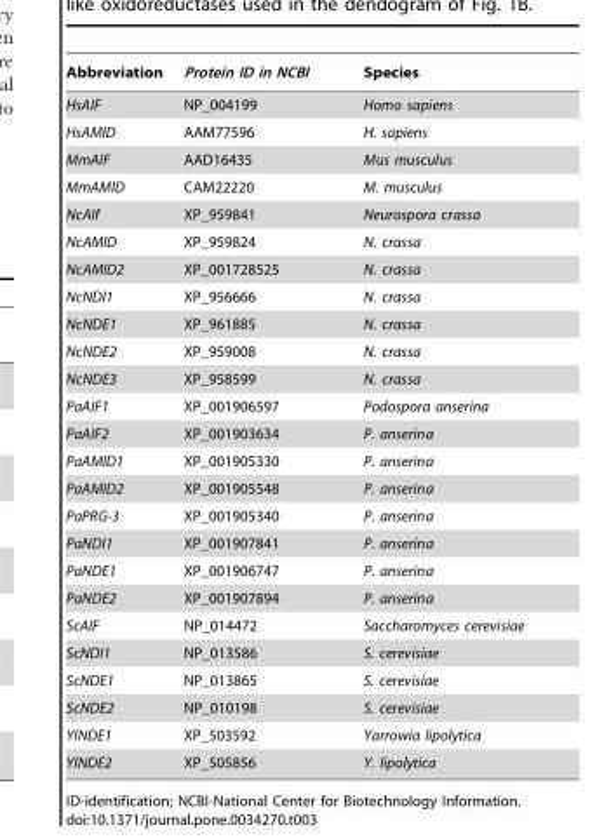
<table><thead><tr><td>Abbreviation</td><td>Protein ID in NCBI</td><td>Species</td></tr></thead><tbody><tr><td>HsAIF</td><td>NP_004199</td><td>Homo sapiens</td></tr><tr><td>HsAMID</td><td>AAM77596</td><td>H. sapiens</td></tr><tr><td>MmAIF</td><td>AAD16435</td><td>Mus musculus</td></tr><tr><td>MmAMID</td><td>CAM22220</td><td>M. musculus</td></tr><tr><td>NcAIf</td><td>XP_959841</td><td>Neurospora crassa</td></tr><tr><td>NcAMID</td><td>XP_959824</td><td>N. crassa</td></tr><tr><td>NcAMID2</td><td>XP_001728525</td><td>N. crassa</td></tr><tr><td>NcNDI1</td><td>XP_956666</td><td>N. crassa</td></tr><tr><td>NcNDE1</td><td>XP_961885</td><td>N. crassa</td></tr><tr><td>NcNDE2</td><td>XP_959008</td><td>N. crassa</td></tr><tr><td>NcNDE3</td><td>XP_958599</td><td>N. crassa</td></tr><tr><td>PaAIF1</td><td>XP_001906597</td><td>Podospora anserina</td></tr><tr><td>PaAIF2</td><td>XP_001903634</td><td>P. anserina</td></tr><tr><td>PaAMID1</td><td>XP_001905330</td><td>P. anserina</td></tr><tr><td>PaAMID2</td><td>XP_001905548</td><td>P. anserina</td></tr><tr><td>PaPRG-3</td><td>XP_001905340</td><td>P. anserina</td></tr><tr><td>PaNDI1</td><td>XP_001907841</td><td>P. anserina</td></tr><tr><td>PaNDE1</td><td>XP_001906747</td><td>P. anserina</td></tr><tr><td>PaNDE2</td><td>XP_001907894</td><td>P. anserina</td></tr><tr><td>ScAIF</td><td>NP_014472</td><td>Saccharomyces cerevisiae</td></tr><tr><td>ScNDI1</td><td>NP_013586</td><td>S. cerevisiae</td></tr><tr><td>ScNDE1</td><td>NP_013865</td><td>S. cerevisiae</td></tr><tr><td>ScNDE2</td><td>NP_010198</td><td>S. cerevisiae</td></tr><tr><td>YlNDE1</td><td>XP_503592</td><td>Yarrowia lipolytica</td></tr><tr><td>YlNDE2</td><td>XP_505856</td><td>Y. lipolytica</td></tr></tbody></table>